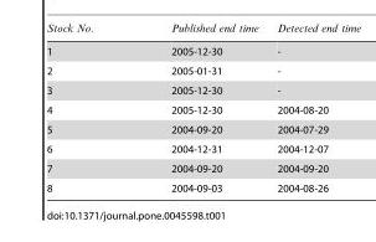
<table><tbody><tr><td>1</td><td>2005-12-30</td><td>-</td></tr><tr><td>2</td><td>2005-01-31</td><td>-</td></tr><tr><td>3</td><td>2005-12-30</td><td>-</td></tr><tr><td>4</td><td>2005-12-30</td><td>2004-08-20</td></tr><tr><td>5</td><td>2004-09-20</td><td>2004-07-29</td></tr><tr><td>6</td><td>2004-12-31</td><td>2004-12-07</td></tr><tr><td>7</td><td>2004-09-20</td><td>2004-09-20</td></tr><tr><td>8</td><td>2004-09-03</td><td>2004-08-26</td></tr></tbody></table>